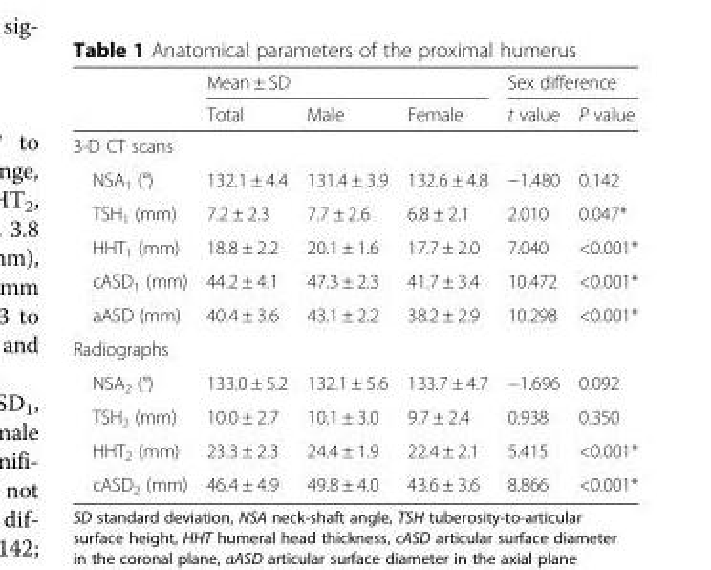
<table><thead><tr><td rowspan="2"></td><td colspan="3">Mean ± SD</td><td colspan="2">Sex difference</td></tr><tr><td>Total</td><td>Male</td><td>Female</td><td>t value</td><td>P value</td></tr></thead><tbody><tr><td colspan="6">3-D CT scans</td></tr><tr><td>NSA<sub>1</sub> (°)</td><td>132.1 ± 4.4</td><td>131.4 ± 3.9</td><td>132.6 ± 4.8</td><td>−1.480</td><td>0.142</td></tr><tr><td>TSH<sub>1</sub> (mm)</td><td>7.2 ± 2.3</td><td>7.7 ± 2.6</td><td>6.8 ± 2.1</td><td>2.010</td><td>0.047*</td></tr><tr><td>HHT<sub>1</sub> (mm)</td><td>18.8 ± 2.2</td><td>20.1 ± 1.6</td><td>17.7 ± 2.0</td><td>7.040</td><td>&lt;0.001*</td></tr><tr><td>cASD<sub>1</sub> (mm)</td><td>44.2 ± 4.1</td><td>47.3 ± 2.3</td><td>41.7 ± 3.4</td><td>10.472</td><td>&lt;0.001*</td></tr><tr><td>aASD (mm)</td><td>40.4 ± 3.6</td><td>43.1 ± 2.2</td><td>38.2 ± 2.9</td><td>10.298</td><td>&lt;0.001*</td></tr><tr><td colspan="6">Radiographs</td></tr><tr><td>NSA<sub>2</sub> (°)</td><td>133.0 ± 5.2</td><td>132.1 ± 5.6</td><td>133.7 ± 4.7</td><td>−1.696</td><td>0.092</td></tr><tr><td>TSH<sub>2</sub> (mm)</td><td>10.0 ± 2.7</td><td>10.1 ± 3.0</td><td>9.7 ± 2.4</td><td>0.938</td><td>0.350</td></tr><tr><td>HHT<sub>2</sub> (mm)</td><td>23.3 ± 2.3</td><td>24.4 ± 1.9</td><td>22.4 ± 2.1</td><td>5.415</td><td>&lt;0.001*</td></tr><tr><td>cASD<sub>2</sub> (mm)</td><td>46.4 ± 4.9</td><td>49.8 ± 4.0</td><td>43.6 ± 3.6</td><td>8.866</td><td>&lt;0.001*</td></tr></tbody></table>